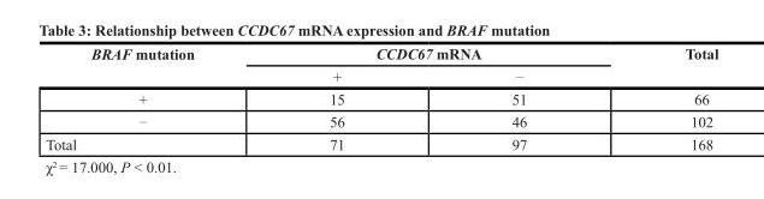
<table><thead><tr><td rowspan="2">BRAF mutation</td><td colspan="2">CCDC67 mRNA</td><td rowspan="2">Total</td></tr><tr><td>+</td><td>−</td></tr></thead><tbody><tr><td>+</td><td>15</td><td>51</td><td>66</td></tr><tr><td>−</td><td>56</td><td>46</td><td>102</td></tr><tr><td>Total</td><td>71</td><td>97</td><td>168</td></tr></tbody></table>